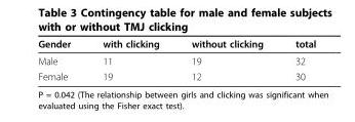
<table><thead><tr><td>Gender</td><td>with clicking</td><td>without clicking</td><td>total</td></tr></thead><tbody><tr><td>Male</td><td>11</td><td>19</td><td>32</td></tr><tr><td>Female</td><td>19</td><td>12</td><td>30</td></tr></tbody></table>